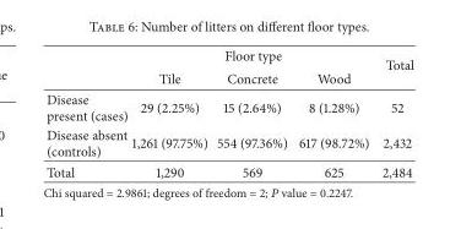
<table><thead><tr><td rowspan="2"></td><td colspan="3">Floor type</td><td rowspan="2">Total</td></tr><tr><td>Tile</td><td>Concrete</td><td>Wood</td></tr></thead><tbody><tr><td>Disease present (cases)</td><td>29 (2.25%)</td><td>15 (2.64%)</td><td>8 (1.28%)</td><td>52</td></tr><tr><td>Disease absent (controls)</td><td>1,261 (97.75%)</td><td>554 (97.36%)</td><td>617 (98.72%)</td><td>2,432</td></tr><tr><td>Total</td><td>1,290</td><td>569</td><td>625</td><td>2,484</td></tr></tbody></table>